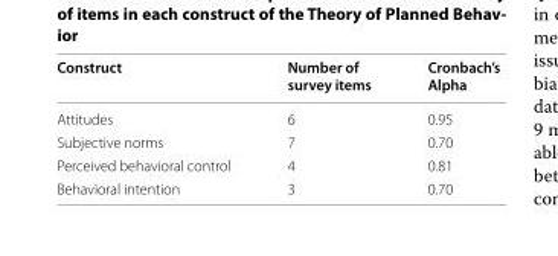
<table><thead><tr><td>Construct</td><td>Number of survey items</td><td>Cronbach’s Alpha</td></tr></thead><tbody><tr><td>Attitudes</td><td>6</td><td>0.95</td></tr><tr><td>Subjective norms</td><td>7</td><td>0.70</td></tr><tr><td>Perceived behavioral control</td><td>4</td><td>0.81</td></tr><tr><td>Behavioral intention</td><td>3</td><td>0.70</td></tr></tbody></table>